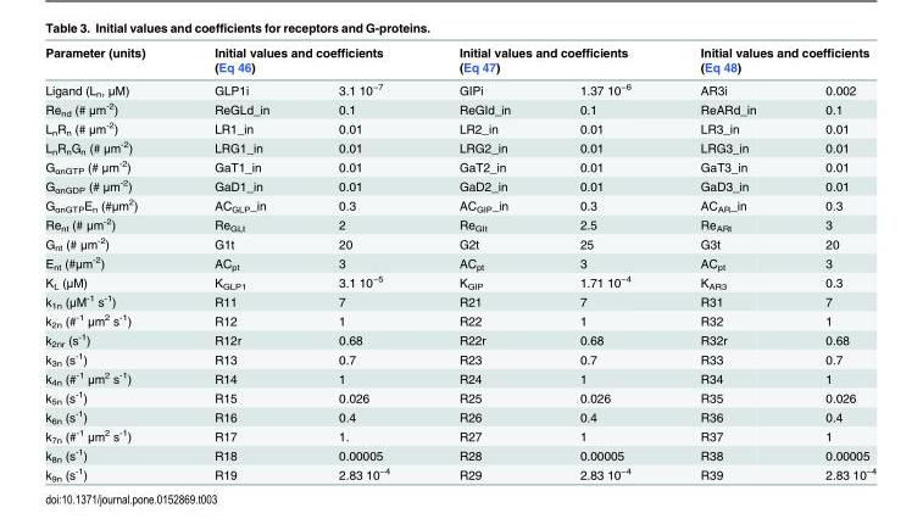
<table><thead><tr><td rowspan="2">Parameter (units) Ligand (L<sub>n</sub>, μM)</td><td colspan="2">Initial values and coefficients (Eq 46)</td><td colspan="2">Initial values and coefficients (Eq 47)</td><td colspan="2">Initial values and coefficients (Eq 48)</td></tr><tr><td>GLP1i</td><td>3.1 10<sup>−7</sup></td><td>GIPi</td><td>1.37 10<sup>−6</sup></td><td>AR3i</td><td>0.002</td></tr></thead><tbody><tr><td>Re<sub>nd</sub> (# μm<sup>-2</sup>)</td><td>ReGLd_in</td><td>0.1</td><td>ReGId_in</td><td>0.1</td><td>ReARd_in</td><td>0.1</td></tr><tr><td>L<sub>n</sub>R<sub>n</sub> (# μm<sup>-2</sup>)</td><td>LR1_in</td><td>0.01</td><td>LR2_in</td><td>0.01</td><td>LR3_in</td><td>0.01</td></tr><tr><td>L<sub>n</sub>R<sub>n</sub>G<sub>n</sub> (# μm<sup>-2</sup>)</td><td>LRG1_in</td><td>0.01</td><td>LRG2_in</td><td>0.01</td><td>LRG3_in</td><td>0.01</td></tr><tr><td>G<sub>αnGTP</sub> (# μm<sup>-2</sup>)</td><td>GaT1_in</td><td>0.01</td><td>GaT2_in</td><td>0.01</td><td>GaT3_in</td><td>0.01</td></tr><tr><td>G<sub>αnGDP</sub> (# μm<sup>-2</sup>)</td><td>GaD1_in</td><td>0.01</td><td>GaD2_in</td><td>0.01</td><td>GaD3_in</td><td>0.01</td></tr><tr><td>G<sub>αnGTP</sub>E<sub>n</sub> (#μm<sup>2</sup>)</td><td>ACGLP_in</td><td>0.3</td><td>ACGIP_in</td><td>0.3</td><td>ACAR_in</td><td>0.3</td></tr><tr><td>Re<sub>nt</sub> (# μm<sup>-2</sup>)</td><td>Re<sub>GLt</sub></td><td>2</td><td>Re<sub>GIt</sub></td><td>2.5</td><td>Re<sub>ARt</sub></td><td>3</td></tr><tr><td>G<sub>nt</sub> (# μm<sup>-2</sup>)</td><td>G1t</td><td>20</td><td>G2t</td><td>25</td><td>G3t</td><td>20</td></tr><tr><td>E<sub>nt</sub> (#μm<sup>-2</sup>)</td><td>AC<sub>pt</sub></td><td>3</td><td>AC<sub>pt</sub></td><td>3</td><td>AC<sub>pt</sub></td><td>3</td></tr><tr><td>K<sub>L</sub> (μM)</td><td>K<sub>GLP1</sub></td><td>3.1 10<sup>−5</sup></td><td>K<sub>GIP</sub></td><td>1.71 10<sup>−4</sup></td><td>K<sub>AR3</sub></td><td>0.3</td></tr><tr><td>k<sub>1n</sub> (μM<sup>-1</sup> s<sup>-1</sup>)</td><td>R11</td><td>7</td><td>R21</td><td>7</td><td>R31</td><td>7</td></tr><tr><td>k<sub>2n</sub> (#<sup>-1</sup> μm<sup>2</sup> s<sup>-1</sup>)</td><td>R12</td><td>1</td><td>R22</td><td>1</td><td>R32</td><td>1</td></tr><tr><td>k<sub>2nr</sub> (s<sup>-1</sup>)</td><td>R12r</td><td>0.68</td><td>R22r</td><td>0.68</td><td>R32r</td><td>0.68</td></tr><tr><td>k<sub>3n</sub> (s<sup>-1</sup>)</td><td>R13</td><td>0.7</td><td>R23</td><td>0.7</td><td>R33</td><td>0.7</td></tr><tr><td>k<sub>4n</sub> (#<sup>-1</sup> μm<sup>2</sup> s<sup>-1</sup>)</td><td>R14</td><td>1</td><td>R24</td><td>1</td><td>R34</td><td>1</td></tr><tr><td>k<sub>5n</sub> (s<sup>-1</sup>)</td><td>R15</td><td>0.026</td><td>R25</td><td>0.026</td><td>R35</td><td>0.026</td></tr><tr><td>k<sub>6n</sub> (s<sup>-1</sup>)</td><td>R16</td><td>0.4</td><td>R26</td><td>0.4</td><td>R36</td><td>0.4</td></tr><tr><td>k<sub>7n</sub> (#<sup>-1</sup> μm<sup>2</sup> s<sup>-1</sup>)</td><td>R17</td><td>1.</td><td>R27</td><td>1</td><td>R37</td><td>1</td></tr><tr><td>k<sub>8n</sub> (s<sup>-1</sup>)</td><td>R18</td><td>0.00005</td><td>R28</td><td>0.00005</td><td>R38</td><td>0.00005</td></tr><tr><td>k<sub>9n</sub> (s<sup>-1</sup>)</td><td>R19</td><td>2.83 10<sup>−4</sup></td><td>R29</td><td>2.83 10<sup>−4</sup></td><td>R39</td><td>2.83 10<sup>−4</sup></td></tr></tbody></table>